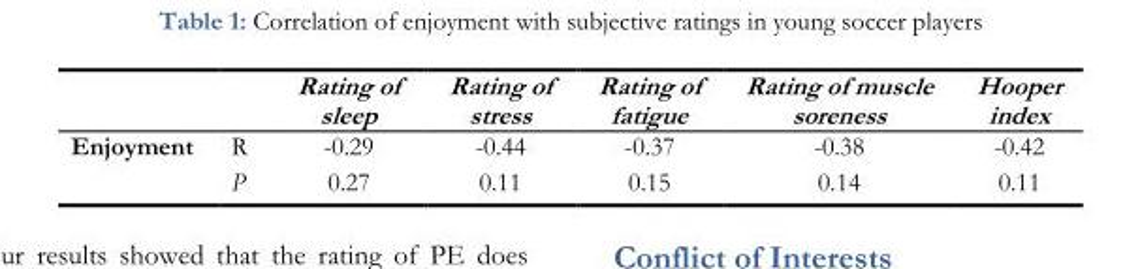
<table><thead><tr><td></td><td></td><td>Rating of sleep</td><td>Rating of stress</td><td>Rating of fatigue</td><td>Rating of muscle soreness</td><td>Hooper index</td></tr></thead><tbody><tr><td rowspan="2">Enjoyment</td><td>R</td><td>-0.29</td><td>-0.44</td><td>-0.37</td><td>-0.38</td><td>-0.42</td></tr><tr><td>P</td><td>0.27</td><td>0.11</td><td>0.15</td><td>0.14</td><td>0.11</td></tr></tbody></table>